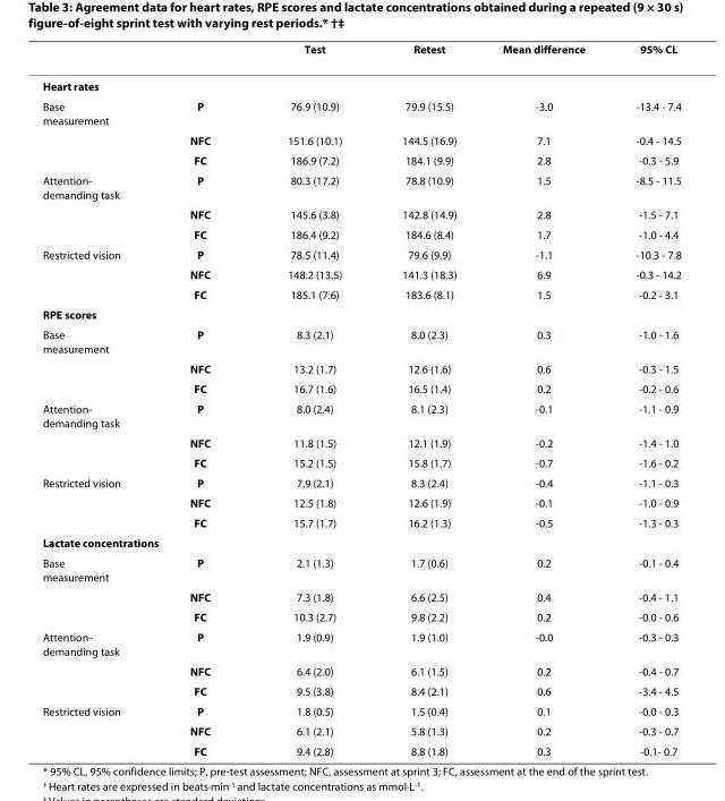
<table><thead><tr><td></td><td></td><td>Test</td><td>Retest</td><td>Mean difference</td><td>95% CL</td></tr></thead><tbody><tr><td colspan="6">Heart rates</td></tr><tr><td rowspan="3">Base measurement</td><td>P</td><td>76.9 (10.9)</td><td>79.9 (15.5)</td><td>-3.0</td><td>-13.4 - 7.4</td></tr><tr><td>NFC</td><td>151.6 (10.1)</td><td>144.5 (16.9)</td><td>7.1</td><td>-0.4 - 14.5</td></tr><tr><td>FC</td><td>186.9 (7.2)</td><td>184.1 (9.9)</td><td>2.8</td><td>-0.3 - 5.9</td></tr><tr><td rowspan="3">Attention- demanding task</td><td>P</td><td>80.3 (17.2)</td><td>78.8 (10.9)</td><td>1.5</td><td>-8.5 - 11.5</td></tr><tr><td>NFC</td><td>145.6 (3.8)</td><td>142.8 (14.9)</td><td>2.8</td><td>-1.5 - 7.1</td></tr><tr><td>FC</td><td>186.4 (9.2)</td><td>184.6 (8.4)</td><td>1.7</td><td>-1.0 - 4.4</td></tr><tr><td rowspan="3">Restricted vision</td><td>P</td><td>78.5 (11.4)</td><td>79.6 (9.9)</td><td>-1.1</td><td>-10.3 - 7.8</td></tr><tr><td>NFC</td><td>148.2 (13.5)</td><td>141.3 (18.3)</td><td>6.9</td><td>-0.3 - 14.2</td></tr><tr><td>FC</td><td>185.1 (7.6)</td><td>183.6 (8.1)</td><td>1.5</td><td>-0.2 - 3.1</td></tr><tr><td colspan="6">RPE scores</td></tr><tr><td rowspan="3">Base measurement</td><td>P</td><td>8.3 (2.1)</td><td>8.0 (2.3)</td><td>0.3</td><td>-1.0 - 1.6</td></tr><tr><td>NFC</td><td>13.2 (1.7)</td><td>12.6 (1.6)</td><td>0.6</td><td>-0.3 - 1.5</td></tr><tr><td>FC</td><td>16.7 (1.6)</td><td>16.5 (1.4)</td><td>0.2</td><td>-0.2 - 0.6</td></tr><tr><td rowspan="3">Attention- demanding task</td><td>P</td><td>8.0 (2.4)</td><td>8.1 (2.3)</td><td>-0.1</td><td>-1.1 - 0.9</td></tr><tr><td>NFC</td><td>11.8 (1.5)</td><td>12.1 (1.9)</td><td>-0.2</td><td>-1.4 - 1.0</td></tr><tr><td>FC</td><td>15.2 (1.5)</td><td>15.8 (1.7)</td><td>-0.7</td><td>-1.6 - 0.2</td></tr><tr><td rowspan="3">Restricted vision</td><td>P</td><td>7.9 (2.1)</td><td>8.3 (2.4)</td><td>-0.4</td><td>-1.1 - 0.3</td></tr><tr><td>NFC</td><td>12.5 (1.8)</td><td>12.6 (1.9)</td><td>-0.1</td><td>-1.0 - 0.9</td></tr><tr><td>FC</td><td>15.7 (1.7)</td><td>16.2 (1.3)</td><td>-0.5</td><td>-1.3 - 0.3</td></tr><tr><td colspan="6">Lactate concentrations</td></tr><tr><td rowspan="3">Base measurement</td><td>P</td><td>2.1 (1.3)</td><td>1.7 (0.6)</td><td>0.2</td><td>-0.1 - 0.4</td></tr><tr><td>NFC</td><td>7.3 (1.8)</td><td>6.6 (2.5)</td><td>0.4</td><td>-0.4 - 1.1</td></tr><tr><td>FC</td><td>10.3 (2.7)</td><td>9.8 (2.2)</td><td>0.2</td><td>-0.0 - 0.6</td></tr><tr><td rowspan="3">Attention- demanding task</td><td>P</td><td>1.9 (0.9)</td><td>1.9 (1.0)</td><td>-0.0</td><td>-0.3 - 0.3</td></tr><tr><td>NFC</td><td>6.4 (2.0)</td><td>6.1 (1.5)</td><td>0.2</td><td>-0.4 - 0.7</td></tr><tr><td>FC</td><td>9.5 (3.8)</td><td>8.4 (2.1)</td><td>0.6</td><td>-3.4 - 4.5</td></tr><tr><td rowspan="3">Restricted vision</td><td>P</td><td>1.8 (0.5)</td><td>1.5 (0.4)</td><td>0.1</td><td>-0.0 - 0.3</td></tr><tr><td>NFC</td><td>6.1 (2.1)</td><td>5.8 (1.3)</td><td>0.2</td><td>-0.3 - 0.7</td></tr><tr><td>FC</td><td>9.4 (2.8)</td><td>8.8 (1.8)</td><td>0.3</td><td>-0.1- 0.7</td></tr></tbody></table>